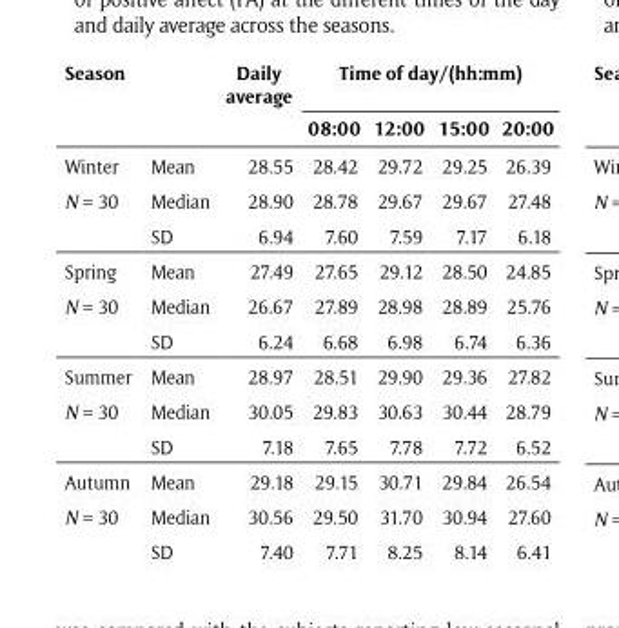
<table><thead><tr><td rowspan="2">Season</td><td rowspan="2"></td><td rowspan="2">Daily average</td><td colspan="4">Time of day/(hh:mm)</td></tr><tr><td>08:00</td><td>12:00</td><td>15:00</td><td>20:00</td></tr></thead><tbody><tr><td>Winter</td><td>Mean</td><td>28.55</td><td>28.42</td><td>29.72</td><td>29.25</td><td>26.39</td></tr><tr><td rowspan="2">N = 30</td><td>Median</td><td>28.90</td><td>28.78</td><td>29.67</td><td>29.67</td><td>27.48</td></tr><tr><td>SD</td><td>6.94</td><td>7.60</td><td>7.59</td><td>7.17</td><td>6.18</td></tr><tr><td>Spring</td><td>Mean</td><td>27.49</td><td>27.65</td><td>29.12</td><td>28.50</td><td>24.85</td></tr><tr><td rowspan="2">N = 30</td><td>Median</td><td>26.67</td><td>27.89</td><td>28.98</td><td>28.89</td><td>25.76</td></tr><tr><td>SD</td><td>6.24</td><td>6.68</td><td>6.98</td><td>6.74</td><td>6.36</td></tr><tr><td>Summer</td><td>Mean</td><td>28.97</td><td>28.51</td><td>29.90</td><td>29.36</td><td>27.82</td></tr><tr><td rowspan="2">N = 30</td><td>Median</td><td>30.05</td><td>29.83</td><td>30.63</td><td>30.44</td><td>28.79</td></tr><tr><td>SD</td><td>7.18</td><td>7.65</td><td>7.78</td><td>7.72</td><td>6.52</td></tr><tr><td>Autumn</td><td>Mean</td><td>29.18</td><td>29.15</td><td>30.71</td><td>29.84</td><td>26.54</td></tr><tr><td rowspan="2">N = 30</td><td>Median</td><td>30.56</td><td>29.50</td><td>31.70</td><td>30.94</td><td>27.60</td></tr><tr><td>SD</td><td>7.40</td><td>7.71</td><td>8.25</td><td>8.14</td><td>6.41</td></tr></tbody></table>